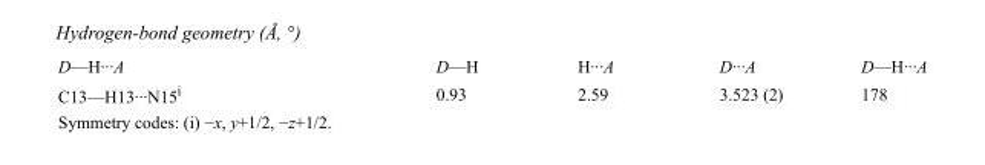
<table><tbody><tr><td>D—H···A</td><td>D—H</td><td>H···A</td><td>D···A</td><td>D—H···A</td></tr><tr><td>C13—H13···N15<sup>i</sup></td><td>0.93</td><td>2.59</td><td>3.523 (2)</td><td>178</td></tr></tbody></table>